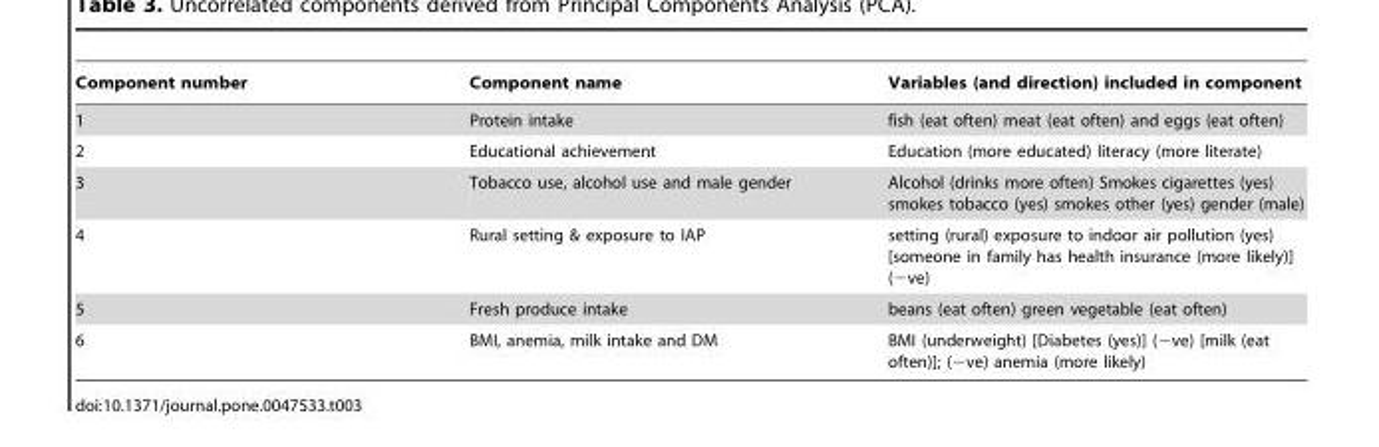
<table><thead><tr><td>Component number</td><td>Component name</td><td>Variables (and direction) included in component</td></tr></thead><tbody><tr><td>1</td><td>Protein intake</td><td>fish (eat often) meat (eat often) and eggs (eat often)</td></tr><tr><td>2</td><td>Educational achievement</td><td>Education (more educated) literacy (more literate)</td></tr><tr><td>3</td><td>Tobacco use, alcohol use and male gender</td><td>Alcohol (drinks more often) Smokes cigarettes (yes) smokes tobacco (yes) smokes other (yes) gender (male)</td></tr><tr><td>4</td><td>Rural setting &amp; exposure to IAP</td><td>setting (rural) exposure to indoor air pollution (yes) [someone in family has health insurance (more likely)] (−ve)</td></tr><tr><td>5</td><td>Fresh produce intake</td><td>beans (eat often) green vegetable (eat often)</td></tr><tr><td>6</td><td>BMI, anemia, milk intake and DM</td><td>BMI (underweight) [Diabetes (yes)] (−ve) [milk (eat often)]; (−ve) anemia (more likely)</td></tr></tbody></table>